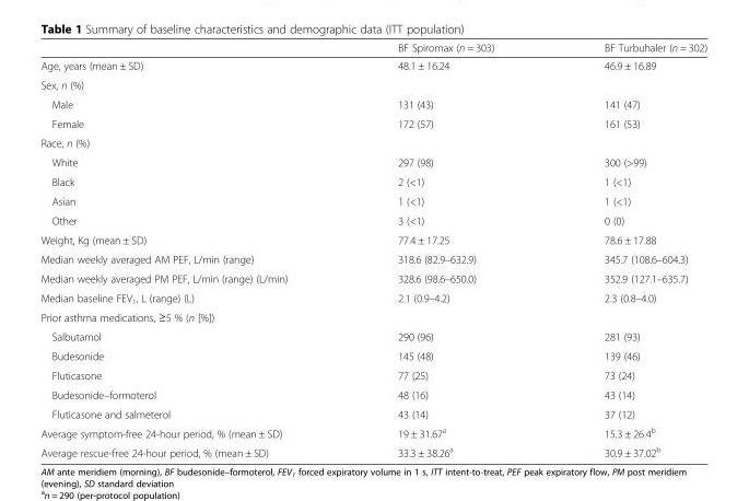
<table><thead><tr><td></td><td>BF Spiromax (n = 303)</td><td>BF Turbuhaler (n = 302)</td></tr></thead><tbody><tr><td>Age, years (mean ± SD)</td><td>48.1 ± 16.24</td><td>46.9 ± 16.89</td></tr><tr><td colspan="3">Sex, n (%)</td></tr><tr><td>Male</td><td>131 (43)</td><td>141 (47)</td></tr><tr><td>Female</td><td>172 (57)</td><td>161 (53)</td></tr><tr><td colspan="3">Race, n (%)</td></tr><tr><td>White</td><td>297 (98)</td><td>300 (&gt;99)</td></tr><tr><td>Black</td><td>2 (&lt;1)</td><td>1 (&lt;1)</td></tr><tr><td>Asian</td><td>1 (&lt;1)</td><td>1 (&lt;1)</td></tr><tr><td>Other</td><td>3 (&lt;1)</td><td>0 (0)</td></tr><tr><td>Weight, Kg (mean ± SD)</td><td>77.4 ± 17.25</td><td>78.6 ± 17.88</td></tr><tr><td>Median weekly averaged AM PEF, L/min (range)</td><td>318.6 (82.9–632.9)</td><td>345.7 (108.6–604.3)</td></tr><tr><td>Median weekly averaged PM PEF, L/min (range) (L/min)</td><td>328.6 (98.6–650.0)</td><td>352.9 (127.1–635.7)</td></tr><tr><td>Median baseline FEV<sub>1</sub>, L (range) (L)</td><td>2.1 (0.9–4.2)</td><td>2.3 (0.8–4.0)</td></tr><tr><td colspan="3">Prior asthma medications, ≥5 % (n [%])</td></tr><tr><td>Salbutamol</td><td>290 (96)</td><td>281 (93)</td></tr><tr><td>Budesonide</td><td>145 (48)</td><td>139 (46)</td></tr><tr><td>Fluticasone</td><td>77 (25)</td><td>73 (24)</td></tr><tr><td>Budesonide–formoterol</td><td>48 (16)</td><td>43 (14)</td></tr><tr><td>Fluticasone and salmeterol</td><td>43 (14)</td><td>37 (12)</td></tr><tr><td>Average symptom-free 24-hour period, % (mean ± SD)</td><td>19 ± 31.67<sup>a</sup></td><td>15.3 ± 26.4<sup>b</sup></td></tr><tr><td>Average rescue-free 24-hour period, % (mean ± SD)</td><td>33.3 ± 38.26<sup>a</sup></td><td>30.9 ± 37.02<sup>b</sup></td></tr></tbody></table>